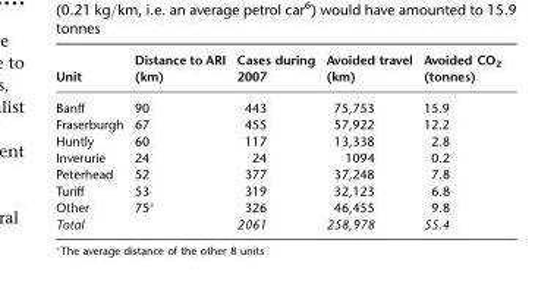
<table><thead><tr><td>Unit</td><td>Distance to ARI (km)</td><td>Cases during 2007</td><td>Avoided travel (km)</td><td>Avoided CO<sub>2</sub> (tonnes)</td></tr></thead><tbody><tr><td>Banff</td><td>90</td><td>443</td><td>75,753</td><td>15.9</td></tr><tr><td>Fraserburgh</td><td>67</td><td>455</td><td>57,922</td><td>12.2</td></tr><tr><td>Huntly</td><td>60</td><td>117</td><td>13,338</td><td>2.8</td></tr><tr><td>Inverurie</td><td>24</td><td>24</td><td>1094</td><td>0.2</td></tr><tr><td>Peterhead</td><td>52</td><td>377</td><td>37,248</td><td>7.8</td></tr><tr><td>Turiff</td><td>53</td><td>319</td><td>32,123</td><td>6.8</td></tr><tr><td>Other</td><td>75*</td><td>326</td><td>46,455</td><td>9.8</td></tr><tr><td>Total</td><td></td><td>2061</td><td>258,978</td><td>55.4</td></tr></tbody></table>